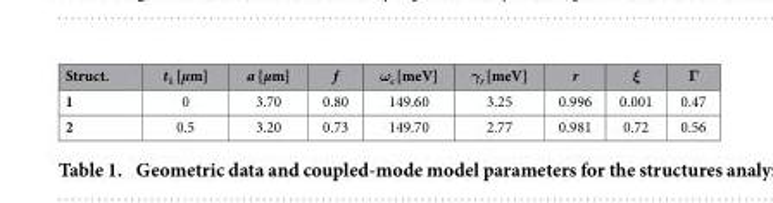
<table><thead><tr><td>Struct.</td><td>t<sub>1</sub> [μm]</td><td>a [μm]</td><td>f</td><td>ω<sub>c</sub> [meV]</td><td>γ<sub>r</sub> [meV]</td><td>r</td><td>ξ</td><td>Γ</td></tr></thead><tbody><tr><td>1</td><td>0</td><td>3.70</td><td>0.80</td><td>149.60</td><td>3.25</td><td>0.996</td><td>0.001</td><td>0.47</td></tr><tr><td>2</td><td>0.5</td><td>3.20</td><td>0.73</td><td>149.70</td><td>2.77</td><td>0.981</td><td>0.72</td><td>0.56</td></tr></tbody></table>